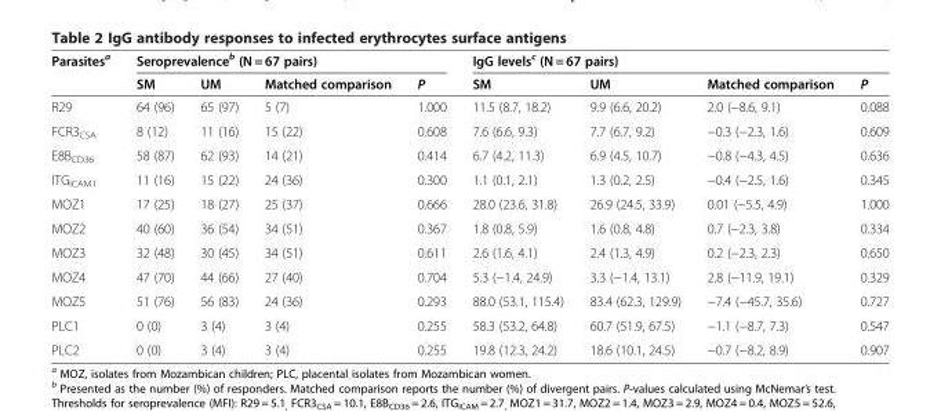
<table><thead><tr><td rowspan="2">Parasites<sup>a</sup></td><td colspan="4">Seroprevalence<sup>b</sup> (N = 67 pairs)</td><td colspan="4">IgG levels<sup>c</sup> (N = 67 pairs)</td></tr><tr><td>SM</td><td>UM</td><td>Matched comparison</td><td>P</td><td>SM</td><td>UM</td><td>Matched comparison</td><td>P</td></tr></thead><tbody><tr><td>R29</td><td>64 (96)</td><td>65 (97)</td><td>5 (7)</td><td>1.000</td><td>11.5 (8.7, 18.2)</td><td>9.9 (6.6, 20.2)</td><td>2.0 (−8.6, 9.1)</td><td>0.088</td></tr><tr><td>FCR3<sub>CSA</sub></td><td>8 (12)</td><td>11 (16)</td><td>15 (22)</td><td>0.608</td><td>7.6 (6.6, 9.3)</td><td>7.7 (6.7, 9.2)</td><td>−0.3 (−2.3, 1.6)</td><td>0.609</td></tr><tr><td>E8B<sub>CD36</sub></td><td>58 (87)</td><td>62 (93)</td><td>14 (21)</td><td>0.414</td><td>6.7 (4.2, 11.3)</td><td>6.9 (4.5, 10.7)</td><td>−0.8 (−4.3, 4.5)</td><td>0.636</td></tr><tr><td>ITG<sub>ICAM1</sub></td><td>11 (16)</td><td>15 (22)</td><td>24 (36)</td><td>0.300</td><td>1.1 (0.1, 2.1)</td><td>1.3 (0.2, 2.5)</td><td>−0.4 (−2.5, 1.6)</td><td>0.345</td></tr><tr><td>MOZ1</td><td>17 (25)</td><td>18 (27)</td><td>25 (37)</td><td>0.666</td><td>28.0 (23.6, 31.8)</td><td>26.9 (24.5, 33.9)</td><td>0.01 (−5.5, 4.9)</td><td>1.000</td></tr><tr><td>MOZ2</td><td>40 (60)</td><td>36 (54)</td><td>34 (51)</td><td>0.367</td><td>1.8 (0.8, 5.9)</td><td>1.6 (0.8, 4.8)</td><td>0.7 (−2.3, 3.8)</td><td>0.334</td></tr><tr><td>MOZ3</td><td>32 (48)</td><td>30 (45)</td><td>34 (51)</td><td>0.611</td><td>2.6 (1.6, 4.1)</td><td>2.4 (1.3, 4.9)</td><td>0.2 (−2.3, 2.3)</td><td>0.650</td></tr><tr><td>MOZ4</td><td>47 (70)</td><td>44 (66)</td><td>27 (40)</td><td>0.704</td><td>5.3 (−1.4, 24.9)</td><td>3.3 (−1.4, 13.1)</td><td>2.8 (−11.9, 19.1)</td><td>0.329</td></tr><tr><td>MOZ5</td><td>51 (76)</td><td>56 (83)</td><td>24 (36)</td><td>0.293</td><td>88.0 (53.1, 115.4)</td><td>83.4 (62.3, 129.9)</td><td>−7.4 (−45.7, 35.6)</td><td>0.727</td></tr><tr><td>PLC1</td><td>0 (0)</td><td>3 (4)</td><td>3 (4)</td><td>0.255</td><td>58.3 (53.2, 64.8)</td><td>60.7 (51.9, 67.5)</td><td>−1.1 (−8.7, 7.3)</td><td>0.547</td></tr><tr><td>PLC2</td><td>0 (0)</td><td>3 (4)</td><td>3 (4)</td><td>0.255</td><td>19.8 (12.3, 24.2)</td><td>18.6 (10.1, 24.5)</td><td>−0.7 (−8.2, 8.9)</td><td>0.907</td></tr></tbody></table>